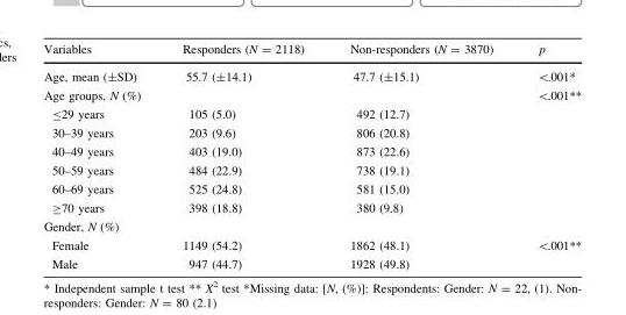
<table><thead><tr><td>Variables</td><td>Responders (N = 2118)</td><td>Non-responders (N = 3870)</td><td>p</td></tr></thead><tbody><tr><td>Age, mean (±SD)</td><td>55.7 (±14.1)</td><td>47.7 (±15.1)</td><td>&lt;.001*</td></tr><tr><td colspan="3">Age groups, N (%)</td><td rowspan="7">&lt;.001**</td></tr><tr><td>≤29 years</td><td>105 (5.0)</td><td>492 (12.7)</td></tr><tr><td>30–39 years</td><td>203 (9.6)</td><td>806 (20.8)</td></tr><tr><td>40–49 years</td><td>403 (19.0)</td><td>873 (22.6)</td></tr><tr><td>50–59 years</td><td>484 (22.9)</td><td>738 (19.1)</td></tr><tr><td>60–69 years</td><td>525 (24.8)</td><td>581 (15.0)</td></tr><tr><td>≥70 years</td><td>398 (18.8)</td><td>380 (9.8)</td></tr><tr><td colspan="4">Gender, N (%)</td></tr><tr><td>Female</td><td>1149 (54.2)</td><td>1862 (48.1)</td><td rowspan="2">&lt;.001**</td></tr><tr><td>Male</td><td>947 (44.7)</td><td>1928 (49.8)</td></tr></tbody></table>